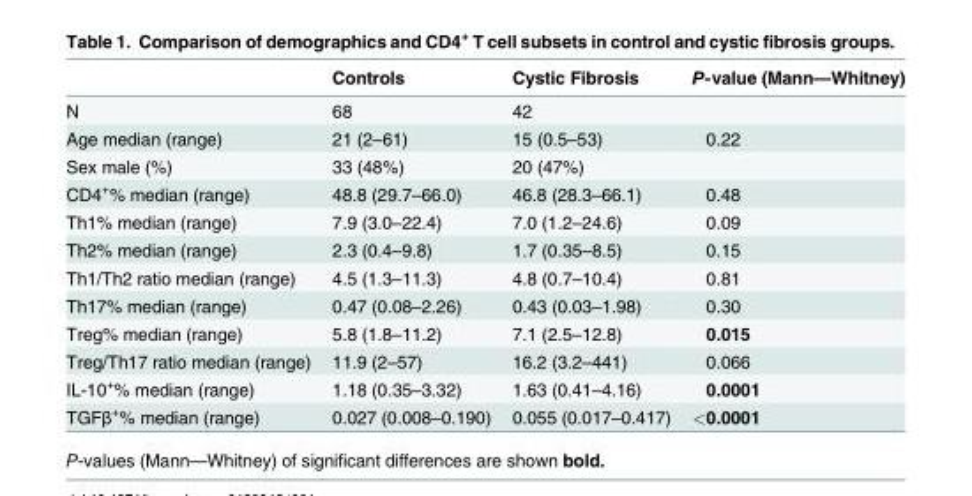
<table><thead><tr><td></td><td>Controls</td><td>Cystic Fibrosis</td><td>P-value (Mann—Whitney)</td></tr></thead><tbody><tr><td>N</td><td>68</td><td>42</td><td></td></tr><tr><td>Age median (range)</td><td>21 (2–61)</td><td>15 (0.5–53)</td><td>0.22</td></tr><tr><td>Sex male (%)</td><td>33 (48%)</td><td>20 (47%)</td><td></td></tr><tr><td>CD4<sup>+</sup>% median (range)</td><td>48.8 (29.7–66.0)</td><td>46.8 (28.3–66.1)</td><td>0.48</td></tr><tr><td>Th1% median (range)</td><td>7.9 (3.0–22.4)</td><td>7.0 (1.2–24.6)</td><td>0.09</td></tr><tr><td>Th2% median (range)</td><td>2.3 (0.4–9.8)</td><td>1.7 (0.35–8.5)</td><td>0.15</td></tr><tr><td>Th1/Th2 ratio median (range)</td><td>4.5 (1.3–11.3)</td><td>4.8 (0.7–10.4)</td><td>0.81</td></tr><tr><td>Th17% median (range)</td><td>0.47 (0.08–2.26)</td><td>0.43 (0.03–1.98)</td><td>0.30</td></tr><tr><td>Treg% median (range)</td><td>5.8 (1.8–11.2)</td><td>7.1 (2.5–12.8)</td><td>0.015</td></tr><tr><td>Treg/Th17 ratio median (range)</td><td>11.9 (2–57)</td><td>16.2 (3.2–441)</td><td>0.066</td></tr><tr><td>IL-10<sup>+</sup>% median (range)</td><td>1.18 (0.35–3.32)</td><td>1.63 (0.41–4.16)</td><td>0.0001</td></tr><tr><td>TGFβ<sup>+</sup>% median (range)</td><td>0.027 (0.008–0.190)</td><td>0.055 (0.017–0.417)</td><td>&lt;0.0001</td></tr></tbody></table>